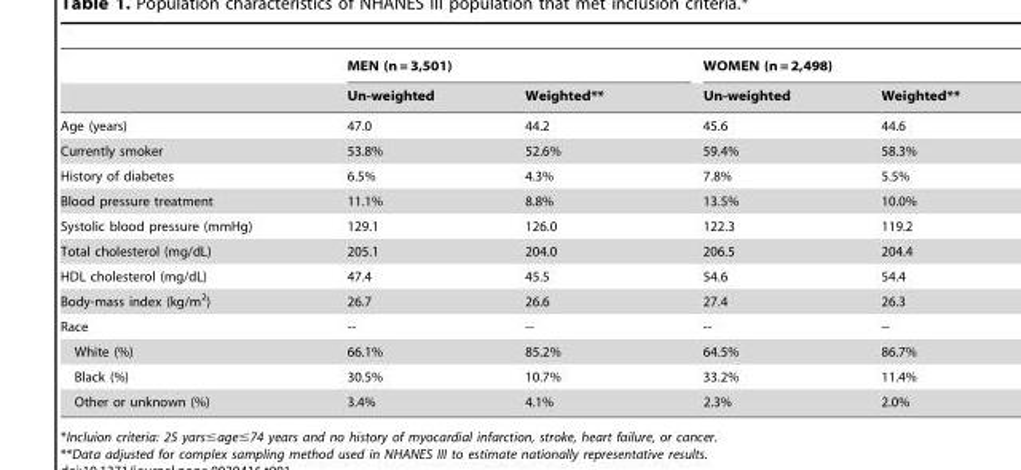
<table><thead><tr><td rowspan="2"></td><td colspan="2">MEN (n = 3,501)</td><td colspan="2">WOMEN (n = 2,498)</td></tr><tr><td>Un-weighted</td><td>Weighted**</td><td>Un-weighted</td><td>Weighted**</td></tr></thead><tbody><tr><td>Age (years)</td><td>47.0</td><td>44.2</td><td>45.6</td><td>44.6</td></tr><tr><td>Currently smoker</td><td>53.8%</td><td>52.6%</td><td>59.4%</td><td>58.3%</td></tr><tr><td>History of diabetes</td><td>6.5%</td><td>4.3%</td><td>7.8%</td><td>5.5%</td></tr><tr><td>Blood pressure treatment</td><td>11.1%</td><td>8.8%</td><td>13.5%</td><td>10.0%</td></tr><tr><td>Systolic blood pressure (mmHg)</td><td>129.1</td><td>126.0</td><td>122.3</td><td>119.2</td></tr><tr><td>Total cholesterol (mg/dL)</td><td>205.1</td><td>204.0</td><td>206.5</td><td>204.4</td></tr><tr><td>HDL cholesterol (mg/dL)</td><td>47.4</td><td>45.5</td><td>54.6</td><td>54.4</td></tr><tr><td>Body-mass index (kg/m<sup>2</sup>)</td><td>26.7</td><td>26.6</td><td>27.4</td><td>26.3</td></tr><tr><td>Race</td><td>--</td><td>--</td><td>--</td><td>--</td></tr><tr><td>White (%)</td><td>66.1%</td><td>85.2%</td><td>64.5%</td><td>86.7%</td></tr><tr><td>Black (%)</td><td>30.5%</td><td>10.7%</td><td>33.2%</td><td>11.4%</td></tr><tr><td>Other or unknown (%)</td><td>3.4%</td><td>4.1%</td><td>2.3%</td><td>2.0%</td></tr></tbody></table>